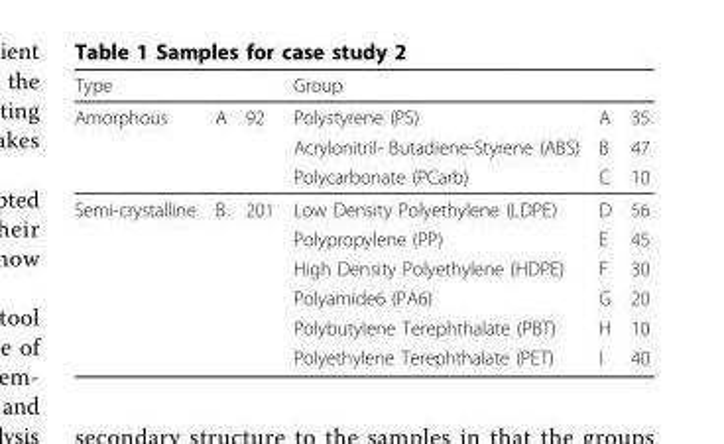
<table><thead><tr><td>Type</td><td></td><td></td><td>Group</td><td></td><td></td></tr></thead><tbody><tr><td rowspan="3">Amorphous</td><td>A</td><td>92</td><td>Polystyrene (PS)</td><td>A</td><td>35</td></tr><tr><td></td><td></td><td>Acrylonitril- Butadiene-Styrene (ABS)</td><td>B</td><td>47</td></tr><tr><td></td><td></td><td>Polycarbonate (PCarb)</td><td>C</td><td>10</td></tr><tr><td rowspan="6">Semi-crystalline</td><td>B</td><td>201</td><td>Low Density Polyethylene (LDPE)</td><td>D</td><td>56</td></tr><tr><td></td><td></td><td>Polypropylene (PP)</td><td>E</td><td>45</td></tr><tr><td></td><td></td><td>High Density Polyethylene (HDPE)</td><td>F</td><td>30</td></tr><tr><td></td><td></td><td>Polyamide6 (PA6)</td><td>G</td><td>20</td></tr><tr><td></td><td></td><td>Polybutylene Terephthalate (PBT)</td><td>H</td><td>10</td></tr><tr><td></td><td></td><td>Polyethylene Terephthalate (PET)</td><td>I</td><td>40</td></tr></tbody></table>